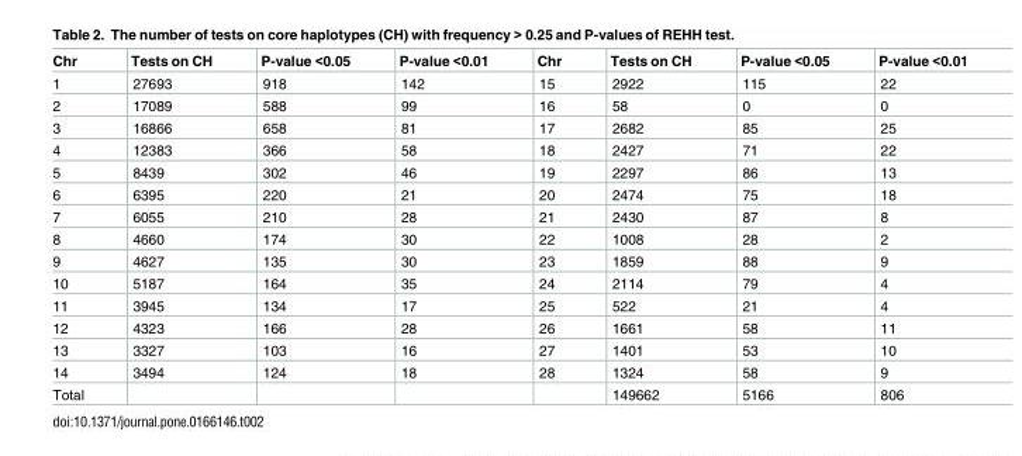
<table><thead><tr><td>Chr</td><td>Tests on CH</td><td>P-value &lt;0.05</td><td>P-value &lt;0.01</td><td>Chr</td><td>Tests on CH</td><td>P-value &lt;0.05</td><td>P-value &lt;0.01</td></tr></thead><tbody><tr><td>1</td><td>27693</td><td>918</td><td>142</td><td>15</td><td>2922</td><td>115</td><td>22</td></tr><tr><td>2</td><td>17089</td><td>588</td><td>99</td><td>16</td><td>58</td><td>0</td><td>0</td></tr><tr><td>3</td><td>16866</td><td>658</td><td>81</td><td>17</td><td>2682</td><td>85</td><td>25</td></tr><tr><td>4</td><td>12383</td><td>366</td><td>58</td><td>18</td><td>2427</td><td>71</td><td>22</td></tr><tr><td>5</td><td>8439</td><td>302</td><td>46</td><td>19</td><td>2297</td><td>86</td><td>13</td></tr><tr><td>6</td><td>6395</td><td>220</td><td>21</td><td>20</td><td>2474</td><td>75</td><td>18</td></tr><tr><td>7</td><td>6055</td><td>210</td><td>28</td><td>21</td><td>2430</td><td>87</td><td>8</td></tr><tr><td>8</td><td>4660</td><td>174</td><td>30</td><td>22</td><td>1008</td><td>28</td><td>2</td></tr><tr><td>9</td><td>4627</td><td>135</td><td>30</td><td>23</td><td>1859</td><td>88</td><td>9</td></tr><tr><td>10</td><td>5187</td><td>164</td><td>35</td><td>24</td><td>2114</td><td>79</td><td>4</td></tr><tr><td>11</td><td>3945</td><td>134</td><td>17</td><td>25</td><td>522</td><td>21</td><td>4</td></tr><tr><td>12</td><td>4323</td><td>166</td><td>28</td><td>26</td><td>1661</td><td>58</td><td>11</td></tr><tr><td>13</td><td>3327</td><td>103</td><td>16</td><td>27</td><td>1401</td><td>53</td><td>10</td></tr><tr><td>14</td><td>3494</td><td>124</td><td>18</td><td>28</td><td>1324</td><td>58</td><td>9</td></tr><tr><td>Total</td><td></td><td></td><td></td><td></td><td>149662</td><td>5166</td><td>806</td></tr></tbody></table>